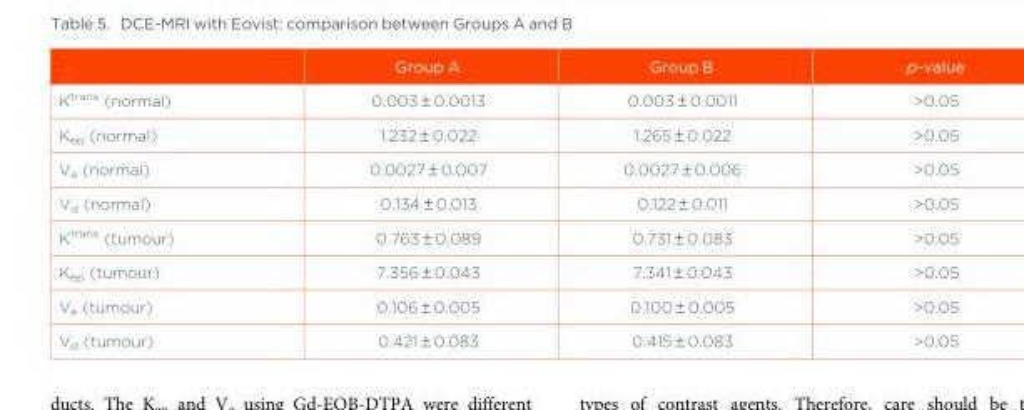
<table><thead><tr><td></td><td>Group A</td><td>Group B</td><td>p-value</td></tr></thead><tbody><tr><td>K<sup>trans</sup> (normal)</td><td>0.003 ± 0.0013</td><td>0.003 ± 0.0011</td><td>&gt;0.05</td></tr><tr><td>K<sub>ep</sub> (normal)</td><td>1.232 ± 0.022</td><td>1.265 ± 0.022</td><td>&gt;0.05</td></tr><tr><td>V<sub>e</sub> (normal)</td><td>0.0027 ± 0.007</td><td>0.0027 ± 0.006</td><td>&gt;0.05</td></tr><tr><td>V<sub>d</sub> (normal)</td><td>0.134 ± 0.013</td><td>0.122 ± 0.011</td><td>&gt;0.05</td></tr><tr><td>K<sup>trans</sup> (tumour)</td><td>0.763 ± 0.089</td><td>0.731 ± 0.083</td><td>&gt;0.05</td></tr><tr><td>K<sub>ep</sub> (tumour)</td><td>7.356 ± 0.043</td><td>7.341 ± 0.043</td><td>&gt;0.05</td></tr><tr><td>V<sub>e</sub> (tumour)</td><td>0.106 ± 0.005</td><td>0.100 ± 0.005</td><td>&gt;0.05</td></tr><tr><td>V<sub>d</sub> (tumour)</td><td>0.421 ± 0.083</td><td>0.415 ± 0.083</td><td>&gt;0.05</td></tr></tbody></table>